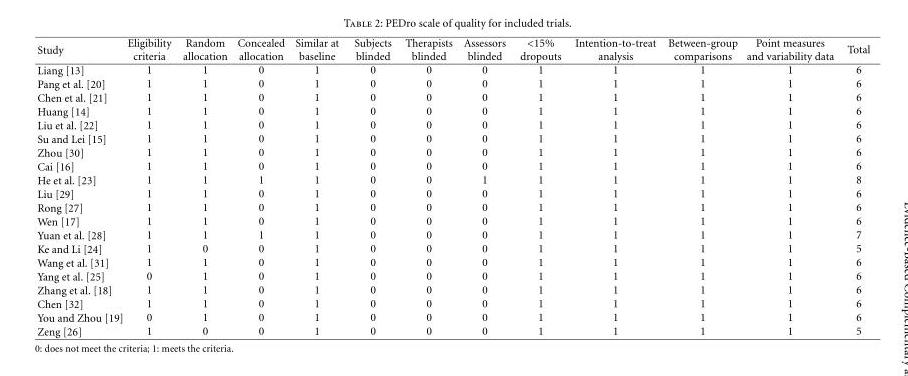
<table><thead><tr><td>Study</td><td>Eligibility criteria</td><td>Random allocation</td><td>Concealed allocation</td><td>Similar at baseline</td><td>Subjects blinded</td><td>Therapists blinded</td><td>Assessors blinded</td><td>&lt;15% dropouts</td><td>Intention-to-treat analysis</td><td>Between-group comparisons</td><td>Point measures and variability data</td><td>Total</td></tr></thead><tbody><tr><td>Liang [13]</td><td>1</td><td>1</td><td>0</td><td>1</td><td>0</td><td>0</td><td>0</td><td>1</td><td>1</td><td>1</td><td>1</td><td>6</td></tr><tr><td>Pang et al. [20]</td><td>1</td><td>1</td><td>0</td><td>1</td><td>0</td><td>0</td><td>0</td><td>1</td><td>1</td><td>1</td><td>1</td><td>6</td></tr><tr><td>Chen et al. [21]</td><td>1</td><td>1</td><td>0</td><td>1</td><td>0</td><td>0</td><td>0</td><td>1</td><td>1</td><td>1</td><td>1</td><td>6</td></tr><tr><td>Huang [14]</td><td>1</td><td>1</td><td>0</td><td>1</td><td>0</td><td>0</td><td>0</td><td>1</td><td>1</td><td>1</td><td>1</td><td>6</td></tr><tr><td>Liu et al. [22]</td><td>1</td><td>1</td><td>0</td><td>1</td><td>0</td><td>0</td><td>0</td><td>1</td><td>1</td><td>1</td><td>1</td><td>6</td></tr><tr><td>Su and Lei [15]</td><td>1</td><td>1</td><td>0</td><td>1</td><td>0</td><td>0</td><td>0</td><td>1</td><td>1</td><td>1</td><td>1</td><td>6</td></tr><tr><td>Zhou [30]</td><td>1</td><td>1</td><td>0</td><td>1</td><td>0</td><td>0</td><td>0</td><td>1</td><td>1</td><td>1</td><td>1</td><td>6</td></tr><tr><td>Cai [16]</td><td>1</td><td>1</td><td>0</td><td>1</td><td>0</td><td>0</td><td>0</td><td>1</td><td>1</td><td>1</td><td>1</td><td>6</td></tr><tr><td>He et al. [23]</td><td>1</td><td>1</td><td>1</td><td>1</td><td>0</td><td>0</td><td>1</td><td>1</td><td>1</td><td>1</td><td>1</td><td>8</td></tr><tr><td>Liu [29]</td><td>1</td><td>1</td><td>0</td><td>1</td><td>0</td><td>0</td><td>0</td><td>1</td><td>1</td><td>1</td><td>1</td><td>6</td></tr><tr><td>Rong [27]</td><td>1</td><td>1</td><td>0</td><td>1</td><td>0</td><td>0</td><td>0</td><td>1</td><td>1</td><td>1</td><td>1</td><td>6</td></tr><tr><td>Wen [17]</td><td>1</td><td>1</td><td>0</td><td>1</td><td>0</td><td>0</td><td>0</td><td>1</td><td>1</td><td>1</td><td>1</td><td>6</td></tr><tr><td>Yuan et al. [28]</td><td>1</td><td>1</td><td>1</td><td>1</td><td>0</td><td>0</td><td>0</td><td>1</td><td>1</td><td>1</td><td>1</td><td>7</td></tr><tr><td>Ke and Li [24]</td><td>1</td><td>0</td><td>0</td><td>1</td><td>0</td><td>0</td><td>0</td><td>1</td><td>1</td><td>1</td><td>1</td><td>5</td></tr><tr><td>Wang et al. [31]</td><td>1</td><td>1</td><td>0</td><td>1</td><td>0</td><td>0</td><td>0</td><td>1</td><td>1</td><td>1</td><td>1</td><td>6</td></tr><tr><td>Yang et al. [25]</td><td>0</td><td>1</td><td>0</td><td>1</td><td>0</td><td>0</td><td>0</td><td>1</td><td>1</td><td>1</td><td>1</td><td>6</td></tr><tr><td>Zhang et al. [18]</td><td>1</td><td>1</td><td>0</td><td>1</td><td>0</td><td>0</td><td>0</td><td>1</td><td>1</td><td>1</td><td>1</td><td>6</td></tr><tr><td>Chen [32]</td><td>1</td><td>1</td><td>0</td><td>1</td><td>0</td><td>0</td><td>0</td><td>1</td><td>1</td><td>1</td><td>1</td><td>6</td></tr><tr><td>You and Zhou [19]</td><td>0</td><td>1</td><td>0</td><td>1</td><td>0</td><td>0</td><td>0</td><td>1</td><td>1</td><td>1</td><td>1</td><td>6</td></tr><tr><td>Zeng [26]</td><td>1</td><td>0</td><td>0</td><td>1</td><td>0</td><td>0</td><td>0</td><td>1</td><td>1</td><td>1</td><td>1</td><td>5</td></tr></tbody></table>